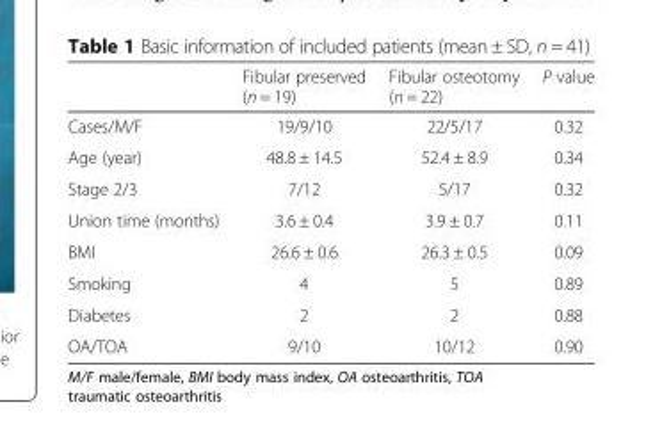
<table><thead><tr><td></td><td>Fibular preserved (n = 19)</td><td>Fibular osteotomy (n = 22)</td><td>P value</td></tr></thead><tbody><tr><td>Cases/M/F</td><td>19/9/10</td><td>22/5/17</td><td>0.32</td></tr><tr><td>Age (year)</td><td>48.8 ± 14.5</td><td>52.4 ± 8.9</td><td>0.34</td></tr><tr><td>Stage 2/3</td><td>7/12</td><td>5/17</td><td>0.32</td></tr><tr><td>Union time (months)</td><td>3.6 ± 0.4</td><td>3.9 ± 0.7</td><td>0.11</td></tr><tr><td>BMI</td><td>26.6 ± 0.6</td><td>26.3 ± 0.5</td><td>0.09</td></tr><tr><td>Smoking</td><td>4</td><td>5</td><td>0.89</td></tr><tr><td>Diabetes</td><td>2</td><td>2</td><td>0.88</td></tr><tr><td>OA/TOA</td><td>9/10</td><td>10/12</td><td>0.90</td></tr></tbody></table>